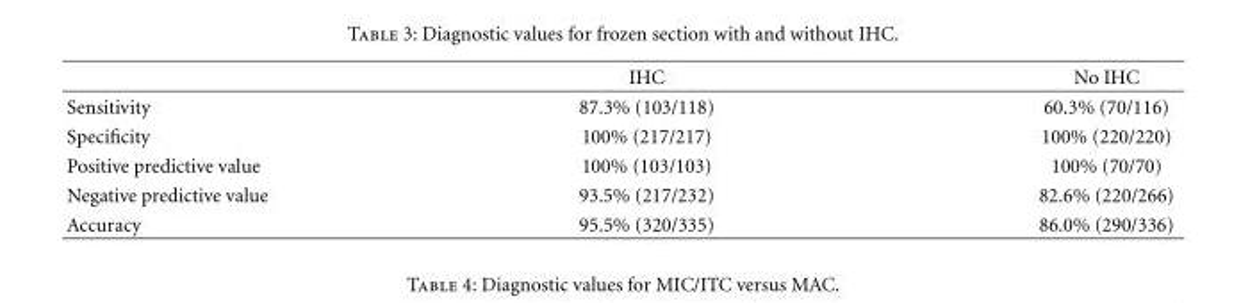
<table><thead><tr><td></td><td>IHC</td><td>No IHC</td></tr></thead><tbody><tr><td>Sensitivity</td><td>87.3% (103/118)</td><td>60.3% (70/116)</td></tr><tr><td>Specificity</td><td>100% (217/217)</td><td>100% (220/220)</td></tr><tr><td>Positive predictive value</td><td>100% (103/103)</td><td>100% (70/70)</td></tr><tr><td>Negative predictive value</td><td>93.5% (217/232)</td><td>82.6% (220/266)</td></tr><tr><td>Accuracy</td><td>95.5% (320/335)</td><td>86.0% (290/336)</td></tr></tbody></table>